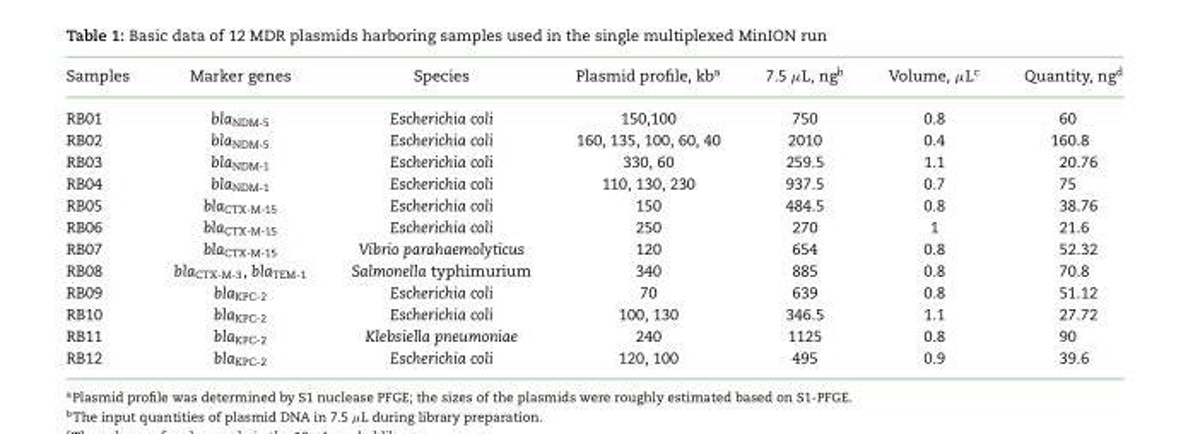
<table><thead><tr><td>Samples</td><td>Marker genes</td><td>Species</td><td>Plasmid profile, kb<sup>a</sup></td><td>7.5 μL, ng<sup>b</sup></td><td>Volume, μL<sup>c</sup></td><td>Quantity, ng<sup>d</sup></td></tr></thead><tbody><tr><td>RB01</td><td>bla<sub>NDM-5</sub></td><td>Escherichia coli</td><td>150,100</td><td>750</td><td>0.8</td><td>60</td></tr><tr><td>RB02</td><td>bla<sub>NDM-5</sub></td><td>Escherichia coli</td><td>160, 135, 100, 60, 40</td><td>2010</td><td>0.4</td><td>160.8</td></tr><tr><td>RB03</td><td>bla<sub>NDM-1</sub></td><td>Escherichia coli</td><td>330, 60</td><td>259.5</td><td>1.1</td><td>20.76</td></tr><tr><td>RB04</td><td>bla<sub>NDM-1</sub></td><td>Escherichia coli</td><td>110, 130, 230</td><td>937.5</td><td>0.7</td><td>75</td></tr><tr><td>RB05</td><td>bla<sub>CTX-M-15</sub></td><td>Escherichia coli</td><td>150</td><td>484.5</td><td>0.8</td><td>38.76</td></tr><tr><td>RB06</td><td>bla<sub>CTX-M-15</sub></td><td>Escherichia coli</td><td>250</td><td>270</td><td>1</td><td>21.6</td></tr><tr><td>RB07</td><td>bla<sub>CTX-M-15</sub></td><td>Vibrio parahaemolyticus</td><td>120</td><td>654</td><td>0.8</td><td>52.32</td></tr><tr><td>RB08</td><td>bla<sub>CTX-M-3</sub>, bla<sub>TEM-1</sub></td><td>Salmonella typhimurium</td><td>340</td><td>885</td><td>0.8</td><td>70.8</td></tr><tr><td>RB09</td><td>bla<sub>KPC-2</sub></td><td>Escherichia coli</td><td>70</td><td>639</td><td>0.8</td><td>51.12</td></tr><tr><td>RB10</td><td>bla<sub>KPC-2</sub></td><td>Escherichia coli</td><td>100, 130</td><td>346.5</td><td>1.1</td><td>27.72</td></tr><tr><td>RB11</td><td>bla<sub>KPC-2</sub></td><td>Klebsiella pneumoniae</td><td>240</td><td>1125</td><td>0.8</td><td>90</td></tr><tr><td>RB12</td><td>bla<sub>KPC-2</sub></td><td>Escherichia coli</td><td>120, 100</td><td>495</td><td>0.9</td><td>39.6</td></tr></tbody></table>